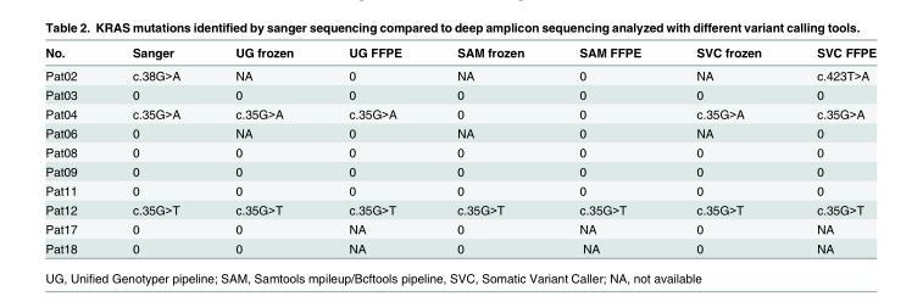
<table><thead><tr><td>No.</td><td>Sanger</td><td>UG frozen</td><td>UG FFPE</td><td>SAM frozen</td><td>SAM FFPE</td><td>SVC frozen</td><td>SVC FFPE</td></tr></thead><tbody><tr><td>Pat02</td><td>c.38G&gt;A</td><td>NA</td><td>0</td><td>NA</td><td>0</td><td>NA</td><td>c.423T&gt;A</td></tr><tr><td>Pat03</td><td>0</td><td>0</td><td>0</td><td>0</td><td>0</td><td>0</td><td>0</td></tr><tr><td>Pat04</td><td>c.35G&gt;A</td><td>c.35G&gt;A</td><td>c.35G&gt;A</td><td>0</td><td>0</td><td>c.35G&gt;A</td><td>c.35G&gt;A</td></tr><tr><td>Pat06</td><td>0</td><td>NA</td><td>0</td><td>NA</td><td>0</td><td>NA</td><td>0</td></tr><tr><td>Pat08</td><td>0</td><td>0</td><td>0</td><td>0</td><td>0</td><td>0</td><td>0</td></tr><tr><td>Pat09</td><td>0</td><td>0</td><td>0</td><td>0</td><td>0</td><td>0</td><td>0</td></tr><tr><td>Pat11</td><td>0</td><td>0</td><td>0</td><td>0</td><td>0</td><td>0</td><td>0</td></tr><tr><td>Pat12</td><td>c.35G&gt;T</td><td>c.35G&gt;T</td><td>c.35G&gt;T</td><td>c.35G&gt;T</td><td>c.35G&gt;T</td><td>c.35G&gt;T</td><td>c.35G&gt;T</td></tr><tr><td>Pat17</td><td>0</td><td>0</td><td>NA</td><td>0</td><td>NA</td><td>0</td><td>NA</td></tr><tr><td>Pat18</td><td>0</td><td>0</td><td>NA</td><td>0</td><td>NA</td><td>0</td><td>NA</td></tr></tbody></table>